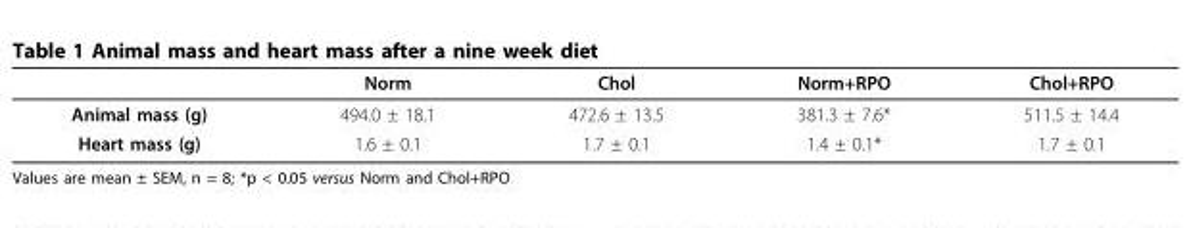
<table><thead><tr><td></td><td>Norm</td><td>Chol</td><td>Norm+RPO</td><td>Chol+RPO</td></tr></thead><tbody><tr><td>Animal mass (g)</td><td>494.0 ± 18.1</td><td>472.6 ± 13.5</td><td>381.3 ± 7.6*</td><td>511.5 ± 14.4</td></tr><tr><td>Heart mass (g)</td><td>1.6 ± 0.1</td><td>1.7 ± 0.1</td><td>1.4 ± 0.1*</td><td>1.7 ± 0.1</td></tr></tbody></table>